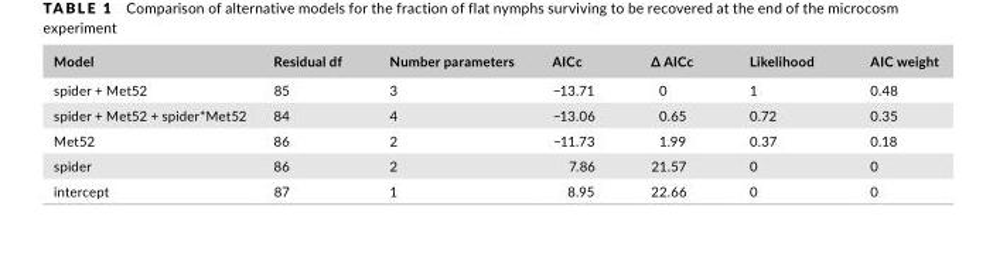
<table><thead><tr><td>Model</td><td>Residual df</td><td>Number parameters</td><td>AICc</td><td>∆ AICc</td><td>Likelihood</td><td>AIC weight</td></tr></thead><tbody><tr><td>spider + Met52</td><td>85</td><td>3</td><td>−13.71</td><td>0</td><td>1</td><td>0.48</td></tr><tr><td>spider + Met52 + spider*Met52</td><td>84</td><td>4</td><td>−13.06</td><td>0.65</td><td>0.72</td><td>0.35</td></tr><tr><td>Met52</td><td>86</td><td>2</td><td>−11.73</td><td>1.99</td><td>0.37</td><td>0.18</td></tr><tr><td>spider</td><td>86</td><td>2</td><td>7.86</td><td>21.57</td><td>0</td><td>0</td></tr><tr><td>intercept</td><td>87</td><td>1</td><td>8.95</td><td>22.66</td><td>0</td><td>0</td></tr></tbody></table>